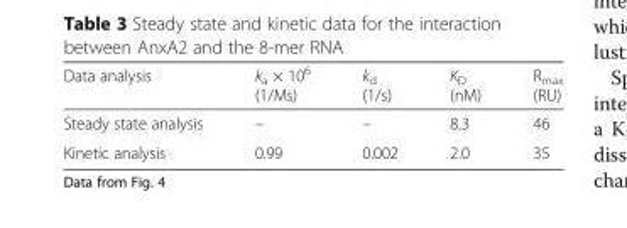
<table><thead><tr><td>Data analysis</td><td>k<sub>a</sub> × 10<sup>6</sup> (1/Ms)</td><td>k<sub>d</sub> (1/s)</td><td>K<sub>D</sub> (nM)</td><td>R<sub>max</sub> (RU)</td></tr></thead><tbody><tr><td>Steady state analysis</td><td>–</td><td>–</td><td>8.3</td><td>46</td></tr><tr><td>Kinetic analysis</td><td>0.99</td><td>0.002</td><td>2.0</td><td>35</td></tr></tbody></table>